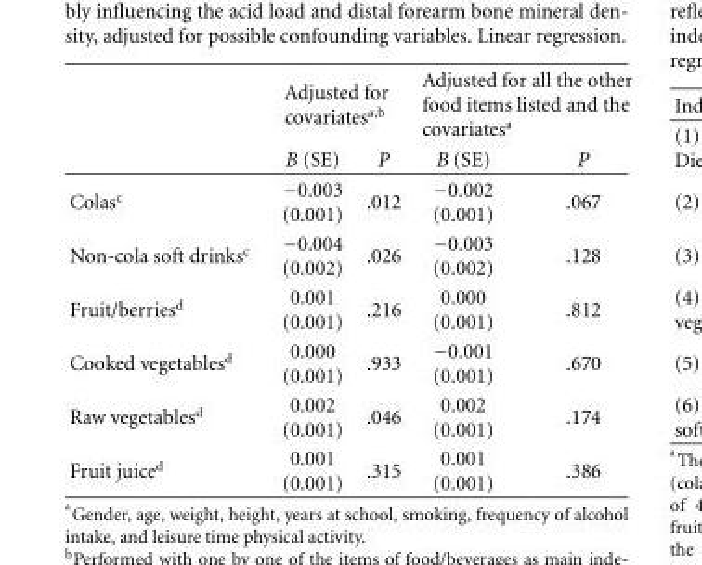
<table><thead><tr><td rowspan="2"></td><td colspan="2">Adjusted for covariates<sup>a,b</sup></td><td colspan="2">Adjusted for all the other food items listed and the covariates<sup>a</sup></td></tr><tr><td>B (SE)</td><td>P</td><td>B (SE)</td><td>P</td></tr></thead><tbody><tr><td>Colas<sup>c</sup></td><td>−0.003 (0.001)</td><td>.012</td><td>−0.002 (0.001)</td><td>.067</td></tr><tr><td>Non-cola soft drinks<sup>c</sup></td><td>−0.004 (0.002)</td><td>.026</td><td>−0.003 (0.002)</td><td>.128</td></tr><tr><td>Fruit/berries<sup>d</sup></td><td>0.001 (0.001)</td><td>.216</td><td>0.000 (0.001)</td><td>.812</td></tr><tr><td>Cooked vegetables<sup>d</sup></td><td>0.000 (0.001)</td><td>.933</td><td>−0.001 (0.001)</td><td>.670</td></tr><tr><td>Raw vegetables<sup>d</sup></td><td>0.002 (0.001)</td><td>.046</td><td>0.002 (0.001)</td><td>.174</td></tr><tr><td>Fruit juice<sup>d</sup></td><td>0.001 (0.001)</td><td>.315</td><td>0.001 (0.001)</td><td>.386</td></tr></tbody></table>